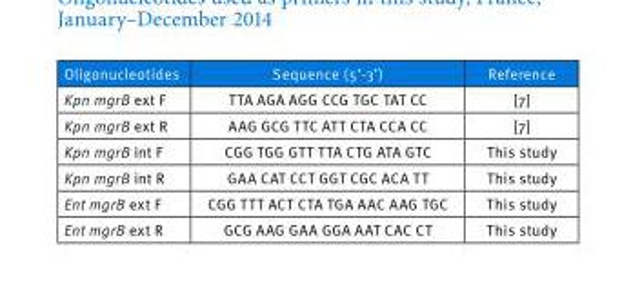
<table><thead><tr><td>Oligonucleotides</td><td>Sequence (5’-3’)</td><td>Reference</td></tr></thead><tbody><tr><td>Kpn mgrB ext F</td><td>TTA AGA AGG CCG TGC TAT CC</td><td>[7]</td></tr><tr><td>Kpn mgrB ext R</td><td>AAG GCG TTC ATT CTA CCA CC</td><td>[7]</td></tr><tr><td>Kpn mgrB int F</td><td>CGG TGG GTT TTA CTG ATA GTC</td><td>This study</td></tr><tr><td>Kpn mgrB int R</td><td>GAA CAT CCT GGT CGC ACA TT</td><td>This study</td></tr><tr><td>Ent mgrB ext F</td><td>CGG TTT ACT CTA TGA AAC AAG TGC</td><td>This study</td></tr><tr><td>Ent mgrB ext R</td><td>GCG AAG GAA GGA AAT CAC CT</td><td>This study</td></tr></tbody></table>